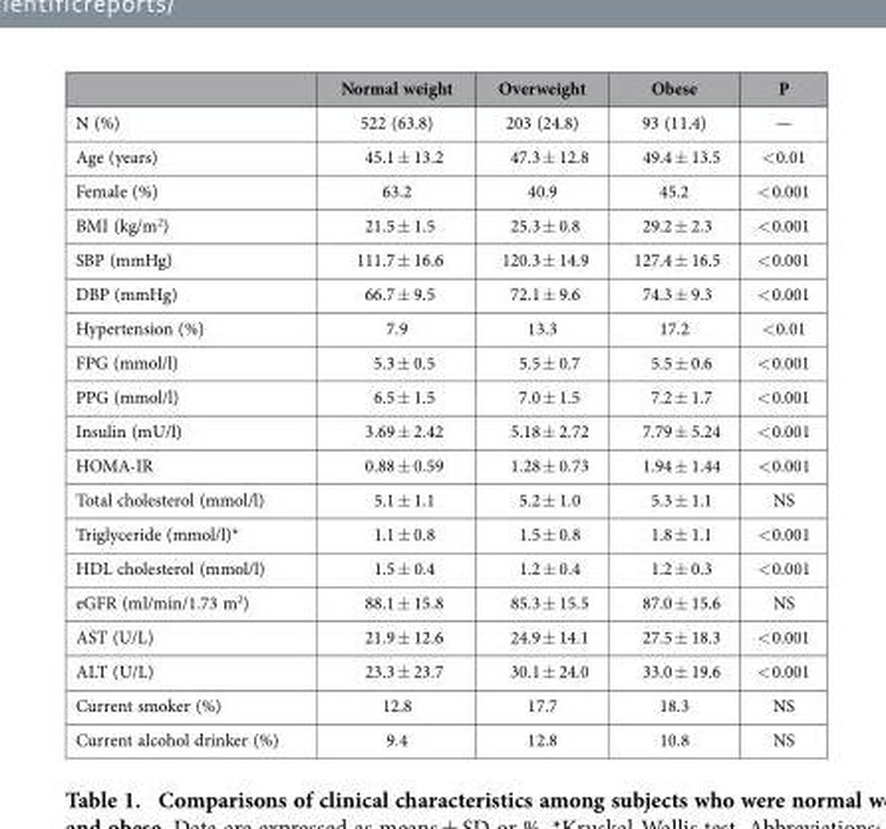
<table><thead><tr><td></td><td>Normal weight</td><td>Overweight</td><td>Obese</td><td>P</td></tr></thead><tbody><tr><td>N (%)</td><td>522 (63.8)</td><td>203 (24.8)</td><td>93 (11.4)</td><td>—</td></tr><tr><td>Age (years)</td><td>45.1 ± 13.2</td><td>47.3 ± 12.8</td><td>49.4 ± 13.5</td><td>&lt; 0.01</td></tr><tr><td>Female (%)</td><td>63.2</td><td>40.9</td><td>45.2</td><td>&lt; 0.001</td></tr><tr><td>BMI (kg/m<sup>2</sup>)</td><td>21.5 ± 1.5</td><td>25.3 ± 0.8</td><td>29.2 ± 2.3</td><td>&lt; 0.001</td></tr><tr><td>SBP (mmHg)</td><td>111.7 ± 16.6</td><td>120.3 ± 14.9</td><td>127.4 ± 16.5</td><td>&lt; 0.001</td></tr><tr><td>DBP (mmHg)</td><td>66.7 ± 9.5</td><td>72.1 ± 9.6</td><td>74.3 ± 9.3</td><td>&lt; 0.001</td></tr><tr><td>Hypertension (%)</td><td>7.9</td><td>13.3</td><td>17.2</td><td>&lt; 0.01</td></tr><tr><td>FPG (mmol/l)</td><td>5.3 ± 0.5</td><td>5.5 ± 0.7</td><td>5.5 ± 0.6</td><td>&lt; 0.001</td></tr><tr><td>PPG (mmol/l)</td><td>6.5 ± 1.5</td><td>7.0 ± 1.5</td><td>7.2 ± 1.7</td><td>&lt; 0.001</td></tr><tr><td>Insulin (mU/l)</td><td>3.69 ± 2.42</td><td>5.18 ± 2.72</td><td>7.79 ± 5.24</td><td>&lt; 0.001</td></tr><tr><td>HOMA-IR</td><td>0.88 ± 0.59</td><td>1.28 ± 0.73</td><td>1.94 ± 1.44</td><td>&lt; 0.001</td></tr><tr><td>Total cholesterol (mmol/l)</td><td>5.1 ± 1.1</td><td>5.2 ± 1.0</td><td>5.3 ± 1.1</td><td>NS</td></tr><tr><td>Triglyceride (mmol/l)*</td><td>1.1 ± 0.8</td><td>1.5 ± 0.8</td><td>1.8 ± 1.1</td><td>&lt; 0.001</td></tr><tr><td>HDL cholesterol (mmol/l)</td><td>1.5 ± 0.4</td><td>1.2 ± 0.4</td><td>1.2 ± 0.3</td><td>&lt; 0.001</td></tr><tr><td>eGFR (ml/min/1.73 m<sup>2</sup>)</td><td>88.1 ± 15.8</td><td>85.3 ± 15.5</td><td>87.0 ± 15.6</td><td>NS</td></tr><tr><td>AST (U/L)</td><td>21.9 ± 12.6</td><td>24.9 ± 14.1</td><td>27.5 ± 18.3</td><td>&lt; 0.001</td></tr><tr><td>ALT (U/L)</td><td>23.3 ± 23.7</td><td>30.1 ± 24.0</td><td>33.0 ± 19.6</td><td>&lt; 0.001</td></tr><tr><td>Current smoker (%)</td><td>12.8</td><td>17.7</td><td>18.3</td><td>NS</td></tr><tr><td>Current alcohol drinker (%)</td><td>9.4</td><td>12.8</td><td>10.8</td><td>NS</td></tr></tbody></table>